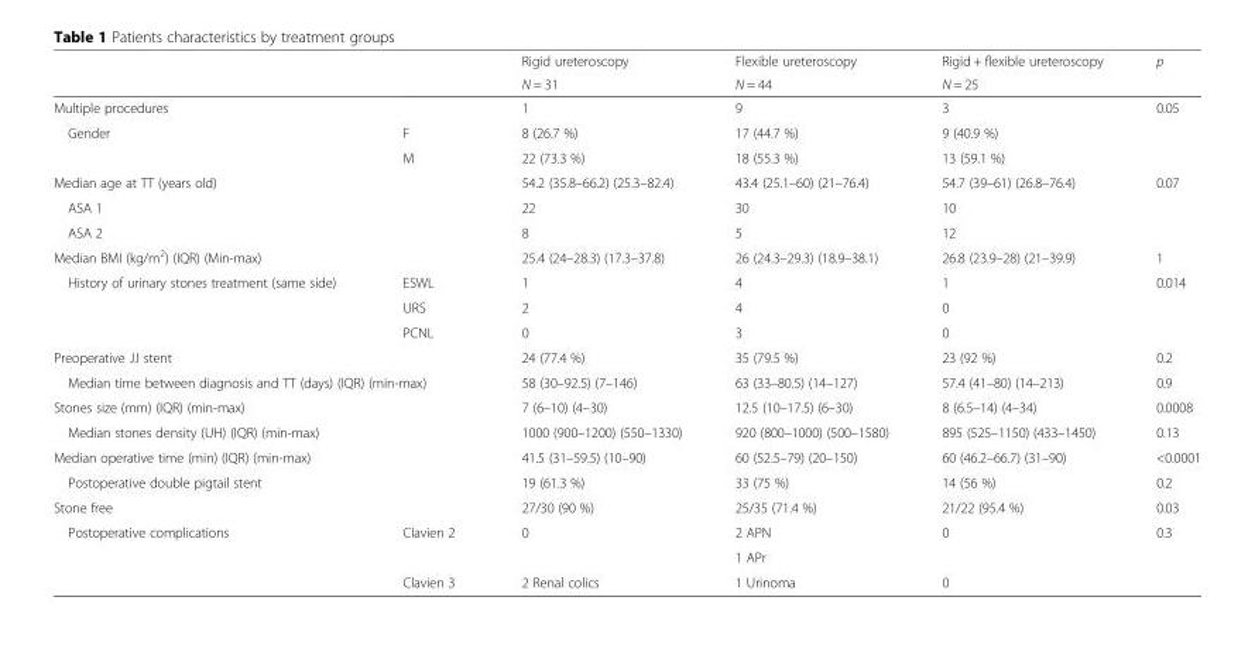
<table><thead><tr><td rowspan="2"></td><td rowspan="2"></td><td rowspan="2">Rigid ureteroscopy N = 31</td><td rowspan="2">Flexible ureteroscopy N = 44</td><td rowspan="2">Rigid + flexible ureteroscopy N = 25</td><td rowspan="2">p</td></tr><tr></tr></thead><tbody><tr><td colspan="2">Multiple procedures</td><td>1</td><td>9</td><td>3</td><td>0.05</td></tr><tr><td rowspan="2">Gender</td><td>F</td><td>8 (26.7 %)</td><td>17 (44.7 %)</td><td>9 (40.9 %)</td><td rowspan="2"></td></tr><tr><td>M</td><td>22 (73.3 %)</td><td>18 (55.3 %)</td><td>13 (59.1 %)</td></tr><tr><td>Median age at TT (years old)</td><td></td><td>54.2 (35.8–66.2) (25.3–82.4)</td><td>43.4 (25.1–60) (21–76.4)</td><td>54.7 (39–61) (26.8–76.4)</td><td>0.07</td></tr><tr><td>ASA 1</td><td></td><td>22</td><td>30</td><td>10</td><td rowspan="2"></td></tr><tr><td>ASA 2</td><td></td><td>8</td><td>5</td><td>12</td></tr><tr><td colspan="2">Median BMI (kg/m<sup>2</sup>) (IQR) (Min-max)</td><td>25.4 (24–28.3) (17.3–37.8)</td><td>26 (24.3–29.3) (18.9–38.1)</td><td>26.8 (23.9–28) (21–39.9)</td><td>1</td></tr><tr><td rowspan="3">History of urinary stones treatment (same side)</td><td>ESWL</td><td>1</td><td>4</td><td>1</td><td rowspan="3">0.014</td></tr><tr><td>URS</td><td>2</td><td>4</td><td>0</td></tr><tr><td>PCNL</td><td>0</td><td>3</td><td>0</td></tr><tr><td colspan="2">Preoperative JJ stent</td><td>24 (77.4 %)</td><td>35 (79.5 %)</td><td>23 (92 %)</td><td>0.2</td></tr><tr><td colspan="2">Median time between diagnosis and TT (days) (IQR) (min-max)</td><td>58 (30–92.5) (7–146)</td><td>63 (33–80.5) (14–127)</td><td>57.4 (41–80) (14–213)</td><td>0.9</td></tr><tr><td colspan="2">Stones size (mm) (IQR) (min-max)</td><td>7 (6–10) (4–30)</td><td>12.5 (10–17.5) (6–30)</td><td>8 (6.5–14) (4–34)</td><td>0.0008</td></tr><tr><td>Median stones density (UH) (IQR) (min-max)</td><td></td><td>1000 (900–1200) (550–1330)</td><td>920 (800–1000) (500–1580)</td><td>895 (525–1150) (433–1450)</td><td>0.13</td></tr><tr><td>Median operative time (min) (IQR) (min-max)</td><td></td><td>41.5 (31–59.5) (10–90)</td><td>60 (52.5–79) (20–150)</td><td>60 (46.2–66.7) (31–90)</td><td>&lt;0.0001</td></tr><tr><td>Postoperative double pigtail stent</td><td></td><td>19 (61.3 %)</td><td>33 (75 %)</td><td>14 (56 %)</td><td>0.2</td></tr><tr><td>Stone free</td><td></td><td>27/30 (90 %)</td><td>25/35 (71.4 %)</td><td>21/22 (95.4 %)</td><td>0.03</td></tr><tr><td rowspan="3">Postoperative complications</td><td rowspan="2">Clavien 2</td><td rowspan="2">0</td><td>2 APN</td><td rowspan="2">0</td><td rowspan="3">0.3</td></tr><tr><td>1 APr</td></tr><tr><td>Clavien 3</td><td>2 Renal colics</td><td>1 Urinoma</td><td>0</td></tr></tbody></table>